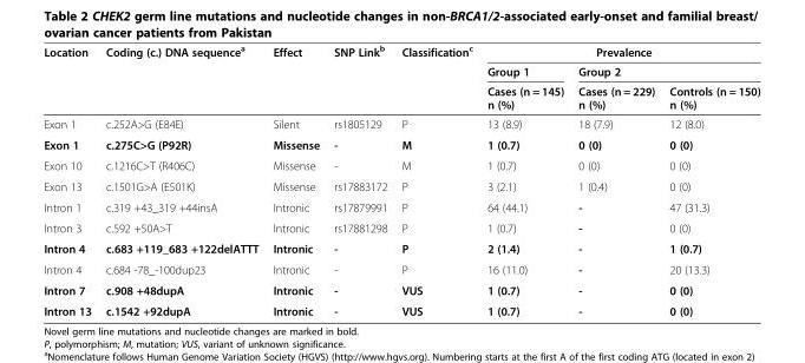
<table><thead><tr><td rowspan="3">Location</td><td rowspan="3">Coding (c.) DNA sequence<sup>a</sup></td><td rowspan="3">Effect</td><td rowspan="3">SNP Link<sup>b</sup></td><td rowspan="3">Classification<sup>c</sup></td><td colspan="3">Prevalence</td></tr><tr><td rowspan="2">Group 1 Cases (n = 145) n (%)</td><td colspan="2">Group 2</td></tr><tr><td>Cases (n = 229) n (%)</td><td>Controls (n = 150) n (%)</td></tr></thead><tbody><tr><td>Exon 1</td><td>c.252A&gt;G (E84E)</td><td>Silent</td><td>rs1805129</td><td>P</td><td>13 (8.9)</td><td>18 (7.9)</td><td>12 (8.0)</td></tr><tr><td>Exon 1</td><td>c.275C&gt;G (P92R)</td><td>Missense</td><td>-</td><td>M</td><td>1 (0.7)</td><td>0 (0)</td><td>0 (0)</td></tr><tr><td>Exon 10</td><td>c.1216C&gt;T (R406C)</td><td>Missense</td><td>-</td><td>M</td><td>1 (0.7)</td><td>0 (0)</td><td>0 (0)</td></tr><tr><td>Exon 13</td><td>c.1501G&gt;A (E501K)</td><td>Missense</td><td>rs17883172</td><td>P</td><td>3 (2.1)</td><td>1 (0.4)</td><td>0 (0)</td></tr><tr><td>Intron 1</td><td>c.319 +43_319 +44insA</td><td>Intronic</td><td>rs17879991</td><td>P</td><td>64 (44.1)</td><td>-</td><td>47 (31.3)</td></tr><tr><td>Intron 3</td><td>c.592 +50A&gt;T</td><td>Intronic</td><td>rs17881298</td><td>P</td><td>1 (0.7)</td><td>-</td><td>0 (0)</td></tr><tr><td>Intron 4</td><td>c.683 +119_683 +122delATTT</td><td>Intronic</td><td>-</td><td>P</td><td>2 (1.4)</td><td>-</td><td>1 (0.7)</td></tr><tr><td>Intron 4</td><td>c.684 -78_-100dup23</td><td>Intronic</td><td>-</td><td>P</td><td>16 (11.0)</td><td>-</td><td>20 (13.3)</td></tr><tr><td>Intron 7</td><td>c.908 +48dupA</td><td>Intronic</td><td>-</td><td>VUS</td><td>1 (0.7)</td><td>-</td><td>0 (0)</td></tr><tr><td>Intron 13</td><td>c.1542 +92dupA</td><td>Intronic</td><td>-</td><td>VUS</td><td>1 (0.7)</td><td>-</td><td>0 (0)</td></tr></tbody></table>